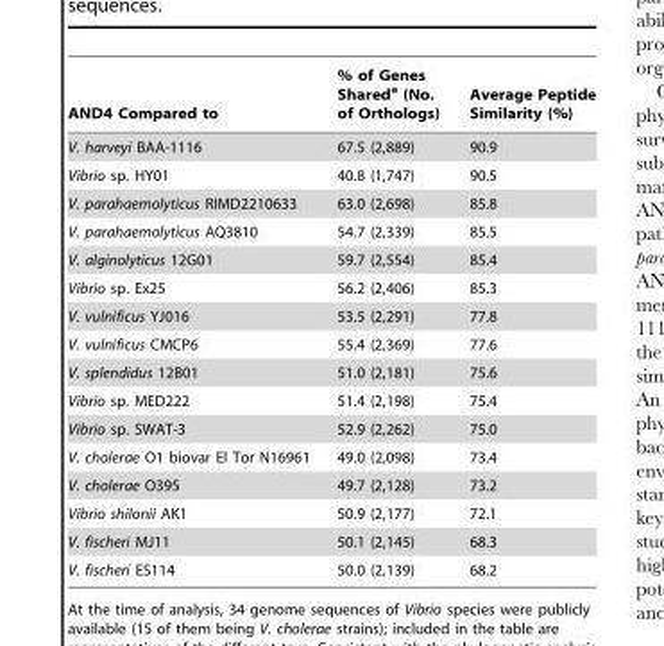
<table><thead><tr><td>AND4 Compared to</td><td>% of Genes Shared<sup>a</sup> (No. of Orthologs)</td><td>Average Peptide Similarity (%)</td></tr></thead><tbody><tr><td>V. harveyi BAA-1116</td><td>67.5 (2,889)</td><td>90.9</td></tr><tr><td>Vibrio sp. HY01</td><td>40.8 (1,747)</td><td>90.5</td></tr><tr><td>V. parahaemolyticus RIMD2210633</td><td>63.0 (2,698)</td><td>85.8</td></tr><tr><td>V. parahaemolyticus AQ3810</td><td>54.7 (2,339)</td><td>85.5</td></tr><tr><td>V. alginolyticus 12G01</td><td>59.7 (2,554)</td><td>85.4</td></tr><tr><td>Vibrio sp. Ex25</td><td>56.2 (2,406)</td><td>85.3</td></tr><tr><td>V. vulnificus YJ016</td><td>53.5 (2,291)</td><td>77.8</td></tr><tr><td>V. vulnificus CMCP6</td><td>55.4 (2,369)</td><td>77.6</td></tr><tr><td>V. splendidus 12B01</td><td>51.0 (2,181)</td><td>75.6</td></tr><tr><td>Vibrio sp. MED222</td><td>51.4 (2,198)</td><td>75.4</td></tr><tr><td>Vibrio sp. SWAT-3</td><td>52.9 (2,262)</td><td>75.0</td></tr><tr><td>V. cholerae O1 biovar El Tor N16961</td><td>49.0 (2,098)</td><td>73.4</td></tr><tr><td>V. cholerae O395</td><td>49.7 (2,128)</td><td>73.2</td></tr><tr><td>Vibrio shilonii AK1</td><td>50.9 (2,177)</td><td>72.1</td></tr><tr><td>V. fischeri MJ11</td><td>50.1 (2,145)</td><td>68.3</td></tr><tr><td>V. fischeri ES114</td><td>50.0 (2,139)</td><td>68.2</td></tr></tbody></table>